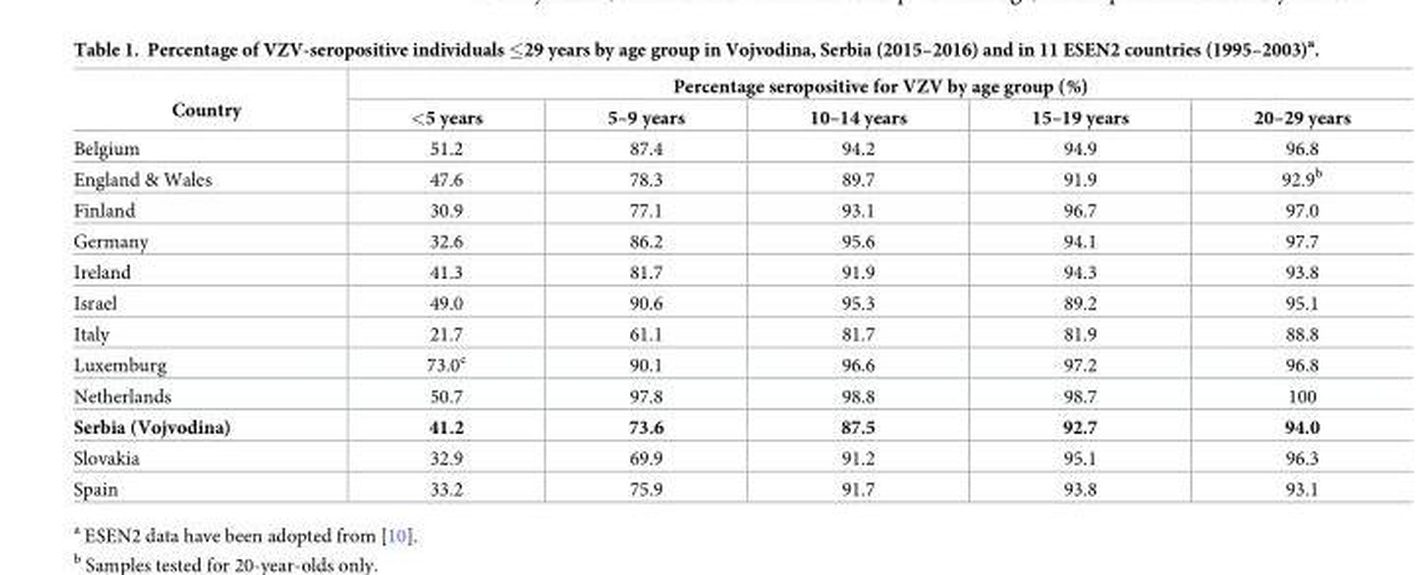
<table><thead><tr><td rowspan="2">Country</td><td colspan="5">Percentage seropositive for VZV by age group (%)</td></tr><tr><td>&lt;5 years</td><td>5–9 years</td><td>10–14 years</td><td>15–19 years</td><td>20–29 years</td></tr></thead><tbody><tr><td>Belgium</td><td>51.2</td><td>87.4</td><td>94.2</td><td>94.9</td><td>96.8</td></tr><tr><td>England &amp; Wales</td><td>47.6</td><td>78.3</td><td>89.7</td><td>91.9</td><td>92.9<sup>b</sup></td></tr><tr><td>Finland</td><td>30.9</td><td>77.1</td><td>93.1</td><td>96.7</td><td>97.0</td></tr><tr><td>Germany</td><td>32.6</td><td>86.2</td><td>95.6</td><td>94.1</td><td>97.7</td></tr><tr><td>Ireland</td><td>41.3</td><td>81.7</td><td>91.9</td><td>94.3</td><td>93.8</td></tr><tr><td>Israel</td><td>49.0</td><td>90.6</td><td>95.3</td><td>89.2</td><td>95.1</td></tr><tr><td>Italy</td><td>21.7</td><td>61.1</td><td>81.7</td><td>81.9</td><td>88.8</td></tr><tr><td>Luxemburg</td><td>73.0<sup>c</sup></td><td>90.1</td><td>96.6</td><td>97.2</td><td>96.8</td></tr><tr><td>Netherlands</td><td>50.7</td><td>97.8</td><td>98.8</td><td>98.7</td><td>100</td></tr><tr><td>Serbia (Vojvodina)</td><td>41.2</td><td>73.6</td><td>87.5</td><td>92.7</td><td>94.0</td></tr><tr><td>Slovakia</td><td>32.9</td><td>69.9</td><td>91.2</td><td>95.1</td><td>96.3</td></tr><tr><td>Spain</td><td>33.2</td><td>75.9</td><td>91.7</td><td>93.8</td><td>93.1</td></tr></tbody></table>